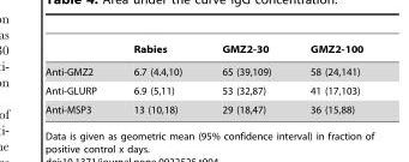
<table><thead><tr><td></td><td>Rabies</td><td>GMZ2-30</td><td>GMZ2-100</td></tr></thead><tbody><tr><td>Anti-GMZ2</td><td>6.7 (4.4,10)</td><td>65 (39,109)</td><td>58 (24,141)</td></tr><tr><td>Anti-GLURP</td><td>6.9 (5,11)</td><td>53 (32,87)</td><td>41 (17,103)</td></tr><tr><td>Anti-MSP3</td><td>13 (10,18)</td><td>29 (18,47)</td><td>36 (15,88)</td></tr></tbody></table>